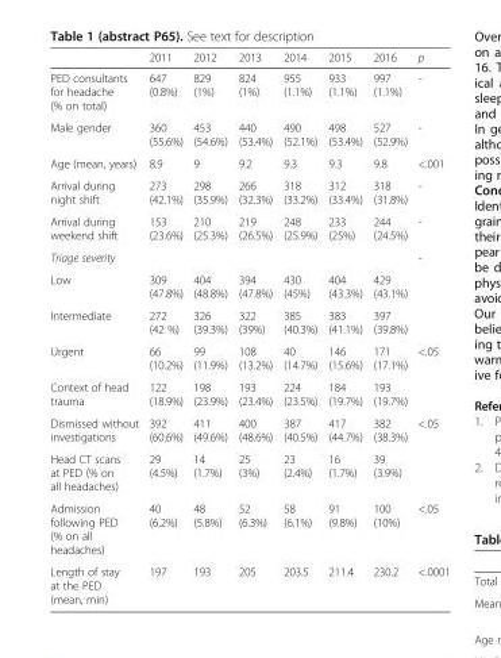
<table><thead><tr><td></td><td>2011</td><td>2012</td><td>2013</td><td>2014</td><td>2015</td><td>2016</td><td>p</td></tr></thead><tbody><tr><td>PED consultants for headache (% on total)</td><td>647 (0.8%)</td><td>829 (1%)</td><td>824 (1%)</td><td>955 (1.1%)</td><td>933 (1.1%)</td><td>997 (1.1%)</td><td>-</td></tr><tr><td>Male gender</td><td>360 (55.6%)</td><td>453 (54.6%)</td><td>440 (53.4%)</td><td>490 (52.1%)</td><td>498 (53.4%)</td><td>527 (52.9%)</td><td>-</td></tr><tr><td>Age (mean, years)</td><td>8.9</td><td>9</td><td>9.2</td><td>9.3</td><td>9.3</td><td>9.8</td><td>&lt;.001</td></tr><tr><td>Arrival during night shift</td><td>273 (42.1%)</td><td>298 (35.9%)</td><td>266 (32.3%)</td><td>318 (33.2%)</td><td>312 (33.4%)</td><td>318 (31.8%)</td><td>-</td></tr><tr><td>Arrival during weekend shift</td><td>153 (23.6%)</td><td>210 (25.3%)</td><td>219 (26.5%)</td><td>248 (25.9%)</td><td>233 (25%)</td><td>244 (24.5%)</td><td>-</td></tr><tr><td>Triage severity</td><td></td><td></td><td></td><td></td><td></td><td></td><td>-</td></tr><tr><td>Low</td><td>309 (47.8%)</td><td>404 (48.8%)</td><td>394 (47.8%)</td><td>430 (45%)</td><td>404 (43.3%)</td><td>429 (43.1%)</td><td></td></tr><tr><td>Intermediate</td><td>272 (42 %)</td><td>326 (39.3%)</td><td>322 (39%)</td><td>385 (40.3%)</td><td>383 (41.1%)</td><td>397 (39.8%)</td><td></td></tr><tr><td>Urgent</td><td>66 (10.2%)</td><td>99 (11.9%)</td><td>108 (13.2%)</td><td>40 (14.7%)</td><td>146 (15.6%)</td><td>171 (17.1%)</td><td>&lt;.05</td></tr><tr><td>Context of head trauma</td><td>122 (18.9%)</td><td>198 (23.9%)</td><td>193 (23.4%)</td><td>224 (23.5%)</td><td>184 (19.7%)</td><td>193 (19.7%)</td><td></td></tr><tr><td>Dismissed without investigations</td><td>392 (60.6%)</td><td>411 (49.6%)</td><td>400 (48.6%)</td><td>387 (40.5%)</td><td>417 (44.7%)</td><td>382 (38.3%)</td><td>&lt;.05</td></tr><tr><td>Head CT scans at PED (% on all headaches)</td><td>29 (4.5%)</td><td>14 (1.7%)</td><td>25 (3%)</td><td>23 (2.4%)</td><td>16 (1.7%)</td><td>39 (3.9%)</td><td></td></tr><tr><td>Admission following PED (% on all headaches)</td><td>40 (6.2%)</td><td>48 (5.8%)</td><td>52 (6.3%)</td><td>58 (6.1%)</td><td>91 (9.8%)</td><td>100 (10%)</td><td>&lt;.05</td></tr><tr><td>Length of stay at the PED (mean, min)</td><td>197</td><td>193</td><td>205</td><td>203.5</td><td>211.4</td><td>230.2</td><td>&lt;.0001</td></tr></tbody></table>